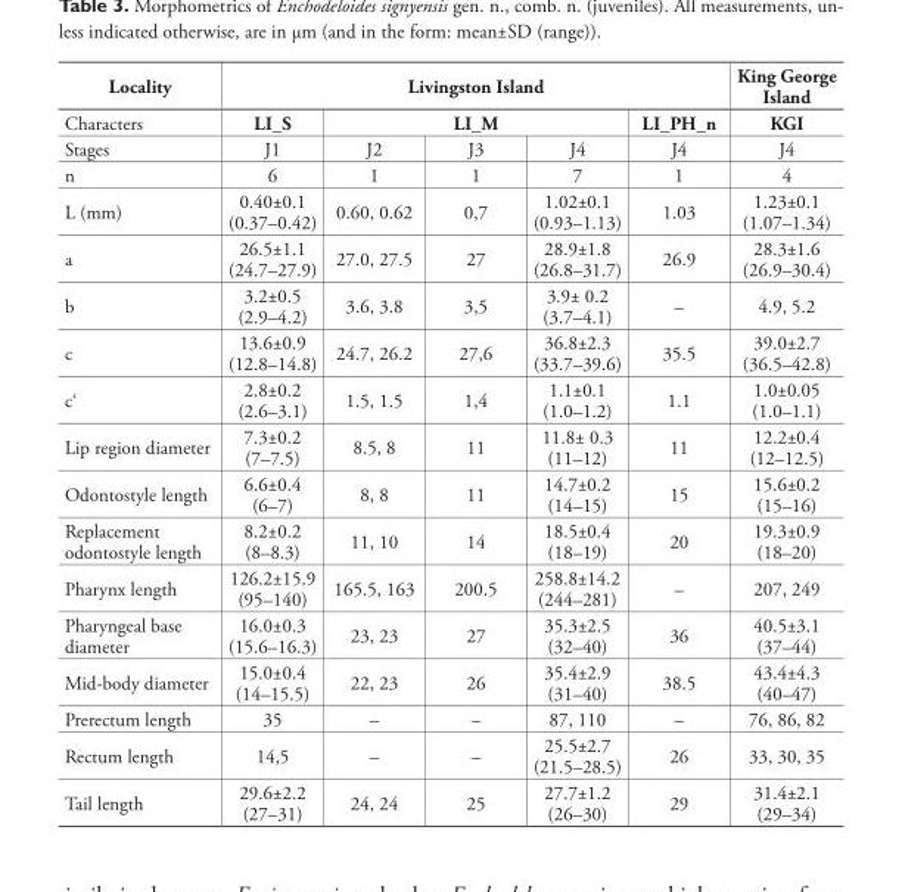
<table><thead><tr><td rowspan="3">Locality Characters Stages</td><td colspan="5">Livingston Island</td><td rowspan="3">King George Island KGI J4</td></tr><tr><td rowspan="2">LI_S J1</td><td colspan="3">LI_M</td><td rowspan="2">LI_PH_n J4</td></tr><tr><td>J2</td><td>J3</td><td>J4</td></tr></thead><tbody><tr><td>n</td><td>6</td><td>1</td><td>1</td><td>7</td><td>1</td><td>4</td></tr><tr><td>L (mm)</td><td>0.40±0.1 (0.37–0.42)</td><td>0.60, 0.62</td><td>0,7</td><td>1.02±0.1 (0.93–1.13)</td><td>1.03</td><td>1.23±0.1 (1.07–1.34)</td></tr><tr><td>a</td><td>26.5±1.1 (24.7–27.9)</td><td>27.0, 27.5</td><td>27</td><td>28.9±1.8 (26.8–31.7)</td><td>26.9</td><td>28.3±1.6 (26.9–30.4)</td></tr><tr><td>b</td><td>3.2±0.5 (2.9–4.2)</td><td>3.6, 3.8</td><td>3,5</td><td>3.9± 0.2 (3.7–4.1)</td><td>–</td><td>4.9, 5.2</td></tr><tr><td>c</td><td>13.6±0.9 (12.8–14.8)</td><td>24.7, 26.2</td><td>27,6</td><td>36.8±2.3 (33.7–39.6)</td><td>35.5</td><td>39.0±2.7 (36.5–42.8)</td></tr><tr><td>c‘</td><td>2.8±0.2 (2.6–3.1)</td><td>1.5, 1.5</td><td>1,4</td><td>1.1±0.1 (1.0–1.2)</td><td>1.1</td><td>1.0±0.05 (1.0–1.1)</td></tr><tr><td>Lip region diameter</td><td>7.3±0.2 (7–7.5)</td><td>8.5, 8</td><td>11</td><td>11.8± 0.3 (11–12)</td><td>11</td><td>12.2±0.4 (12–12.5)</td></tr><tr><td>Odontostyle length</td><td>6.6±0.4 (6–7)</td><td>8, 8</td><td>11</td><td>14.7±0.2 (14–15)</td><td>15</td><td>15.6±0.2 (15–16)</td></tr><tr><td>Replacement odontostyle length</td><td>8.2±0.2 (8–8.3)</td><td>11, 10</td><td>14</td><td>18.5±0.4 (18–19)</td><td>20</td><td>19.3±0.9 (18–20)</td></tr><tr><td>Pharynx length</td><td>126.2±15.9 (95–140)</td><td>165.5, 163</td><td>200.5</td><td>258.8±14.2 (244–281)</td><td>–</td><td>207, 249</td></tr><tr><td>Pharyngeal base diameter</td><td>16.0±0.3 (15.6–16.3)</td><td>23, 23</td><td>27</td><td>35.3±2.5 (32–40)</td><td>36</td><td>40.5±3.1 (37–44)</td></tr><tr><td>Mid-body diameter</td><td>15.0±0.4 (14–15.5)</td><td>22, 23</td><td>26</td><td>35.4±2.9 (31–40)</td><td>38.5</td><td>43.4±4.3 (40–47)</td></tr><tr><td>Prerectum length</td><td>35</td><td>–</td><td>–</td><td>87, 110</td><td>–</td><td>76, 86, 82</td></tr><tr><td>Rectum length</td><td>14,5</td><td>–</td><td>–</td><td>25.5±2.7 (21.5–28.5)</td><td>26</td><td>33, 30, 35</td></tr><tr><td>Tail length</td><td>29.6±2.2 (27–31)</td><td>24, 24</td><td>25</td><td>27.7±1.2 (26–30)</td><td>29</td><td>31.4±2.1 (29–34)</td></tr></tbody></table>